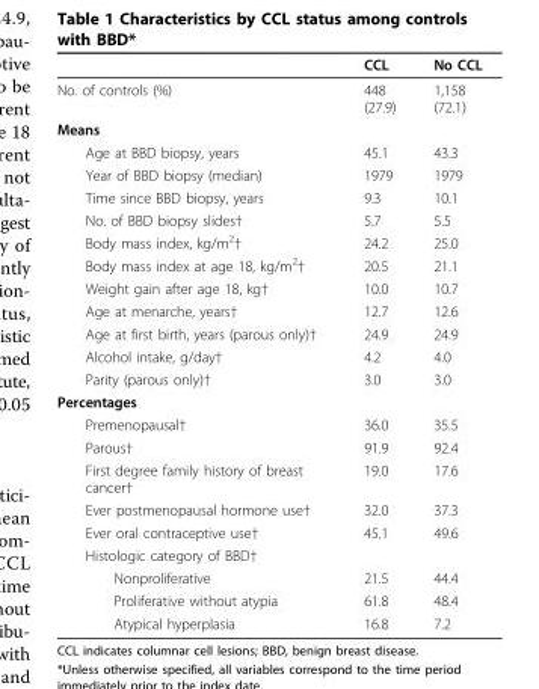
<table><thead><tr><td></td><td>CCL</td><td>No CCL</td></tr></thead><tbody><tr><td>No. of controls (%)</td><td>448 (27.9)</td><td>1,158 (72.1)</td></tr><tr><td colspan="3">Means</td></tr><tr><td>Age at BBD biopsy, years</td><td>45.1</td><td>43.3</td></tr><tr><td>Year of BBD biopsy (median)</td><td>1979</td><td>1979</td></tr><tr><td>Time since BBD biopsy, years</td><td>9.3</td><td>10.1</td></tr><tr><td>No. of BBD biopsy slides†</td><td>5.7</td><td>5.5</td></tr><tr><td>Body mass index, kg/m<sup>2</sup>†</td><td>24.2</td><td>25.0</td></tr><tr><td>Body mass index at age 18, kg/m<sup>2</sup>†</td><td>20.5</td><td>21.1</td></tr><tr><td>Weight gain after age 18, kg†</td><td>10.0</td><td>10.7</td></tr><tr><td>Age at menarche, years†</td><td>12.7</td><td>12.6</td></tr><tr><td>Age at first birth, years (parous only)†</td><td>24.9</td><td>24.9</td></tr><tr><td>Alcohol intake, g/day†</td><td>4.2</td><td>4.0</td></tr><tr><td>Parity (parous only)†</td><td>3.0</td><td>3.0</td></tr><tr><td colspan="3">Percentages</td></tr><tr><td>Premenopausal†</td><td>36.0</td><td>35.5</td></tr><tr><td>Parous†</td><td>91.9</td><td>92.4</td></tr><tr><td>First degree family history of breast cancer†</td><td>19.0</td><td>17.6</td></tr><tr><td>Ever postmenopausal hormone use†</td><td>32.0</td><td>37.3</td></tr><tr><td>Ever oral contraceptive use†</td><td>45.1</td><td>49.6</td></tr><tr><td colspan="3">Histologic category of BBD†</td></tr><tr><td>Nonproliferative</td><td>21.5</td><td>44.4</td></tr><tr><td>Proliferative without atypia</td><td>61.8</td><td>48.4</td></tr><tr><td>Atypical hyperplasia</td><td>16.8</td><td>7.2</td></tr></tbody></table>